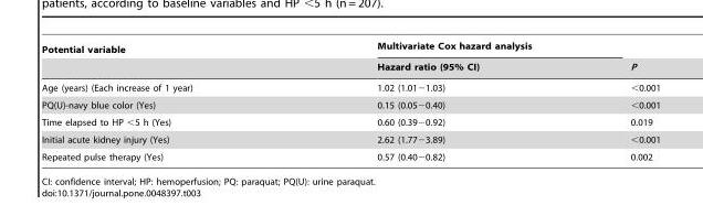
<table><thead><tr><td rowspan="2">Potential variable</td><td rowspan="2">Multivariate Cox hazard analysis Hazard ratio (95% CI)</td><td rowspan="2">P</td></tr><tr></tr></thead><tbody><tr><td>Age (years) (Each increase of 1 year)</td><td>1.02 (1.01−1.03)</td><td>&lt;0.001</td></tr><tr><td>PQ(U)-navy blue color (Yes)</td><td>0.15 (0.05−0.40)</td><td>&lt;0.001</td></tr><tr><td>Time elapsed to HP &lt;5 h (Yes)</td><td>0.60 (0.39−0.92)</td><td>0.019</td></tr><tr><td>Initial acute kidney injury (Yes)</td><td>2.62 (1.77−3.89)</td><td>&lt;0.001</td></tr><tr><td>Repeated pulse therapy (Yes)</td><td>0.57 (0.40−0.82)</td><td>0.002</td></tr></tbody></table>